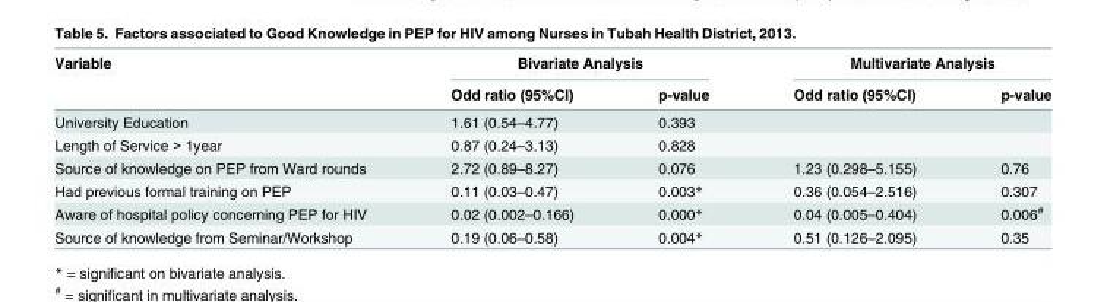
<table><thead><tr><td rowspan="2">Variable</td><td colspan="2">Bivariate Analysis</td><td colspan="2">Multivariate Analysis</td></tr><tr><td>Odd ratio (95%CI)</td><td>p-value</td><td>Odd ratio (95%CI)</td><td>p-value</td></tr></thead><tbody><tr><td>University Education</td><td>1.61 (0.54–4.77)</td><td>0.393</td><td></td><td></td></tr><tr><td>Length of Service &gt; 1year</td><td>0.87 (0.24–3.13)</td><td>0.828</td><td></td><td></td></tr><tr><td>Source of knowledge on PEP from Ward rounds</td><td>2.72 (0.89–8.27)</td><td>0.076</td><td>1.23 (0.298–5.155)</td><td>0.76</td></tr><tr><td>Had previous formal training on PEP</td><td>0.11 (0.03–0.47)</td><td>0.003*</td><td>0.36 (0.054–2.516)</td><td>0.307</td></tr><tr><td>Aware of hospital policy concerning PEP for HIV</td><td>0.02 (0.002–0.166)</td><td>0.000*</td><td>0.04 (0.005–0.404)</td><td>0.006<sup>#</sup></td></tr><tr><td>Source of knowledge from Seminar/Workshop</td><td>0.19 (0.06–0.58)</td><td>0.004*</td><td>0.51 (0.126–2.095)</td><td>0.35</td></tr></tbody></table>